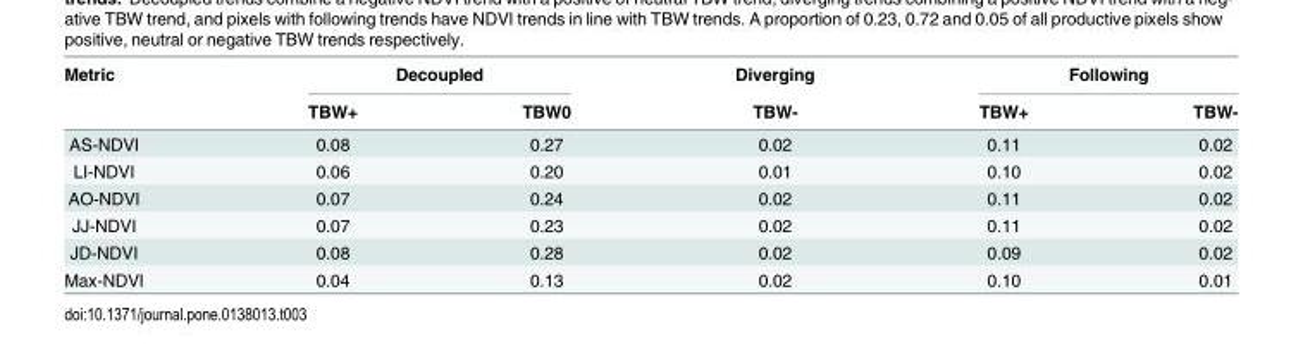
<table><thead><tr><td rowspan="2">Metric</td><td colspan="2">Decoupled</td><td rowspan="2">Diverging TBW-</td><td colspan="2">Following</td></tr><tr><td>TBW+</td><td>TBW0</td><td>TBW+</td><td>TBW-</td></tr></thead><tbody><tr><td>AS-NDVI</td><td>0.08</td><td>0.27</td><td>0.02</td><td>0.11</td><td>0.02</td></tr><tr><td>LI-NDVI</td><td>0.06</td><td>0.20</td><td>0.01</td><td>0.10</td><td>0.02</td></tr><tr><td>AO-NDVI</td><td>0.07</td><td>0.24</td><td>0.02</td><td>0.11</td><td>0.02</td></tr><tr><td>JJ-NDVI</td><td>0.07</td><td>0.23</td><td>0.02</td><td>0.11</td><td>0.02</td></tr><tr><td>JD-NDVI</td><td>0.08</td><td>0.28</td><td>0.02</td><td>0.09</td><td>0.02</td></tr><tr><td>Max-NDVI</td><td>0.04</td><td>0.13</td><td>0.02</td><td>0.10</td><td>0.01</td></tr></tbody></table>